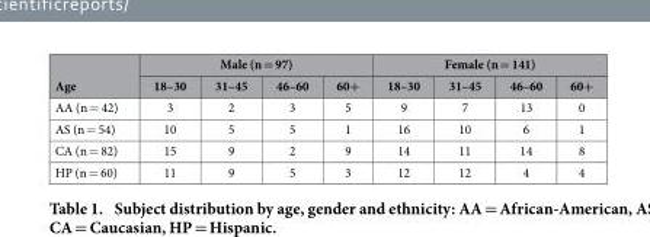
<table><thead><tr><td rowspan="2">Age</td><td colspan="4">Male (n = 97)</td><td colspan="4">Female (n = 141)</td></tr><tr><td>18–30</td><td>31–45</td><td>46–60</td><td>60+</td><td>18–30</td><td>31–45</td><td>46–60</td><td>60+</td></tr></thead><tbody><tr><td>AA (n = 42)</td><td>3</td><td>2</td><td>3</td><td>5</td><td>9</td><td>7</td><td>13</td><td>0</td></tr><tr><td>AS (n = 54)</td><td>10</td><td>5</td><td>5</td><td>1</td><td>16</td><td>10</td><td>6</td><td>1</td></tr><tr><td>CA (n = 82)</td><td>15</td><td>9</td><td>2</td><td>9</td><td>14</td><td>11</td><td>14</td><td>8</td></tr><tr><td>HP (n = 60)</td><td>11</td><td>9</td><td>5</td><td>3</td><td>12</td><td>12</td><td>4</td><td>4</td></tr></tbody></table>